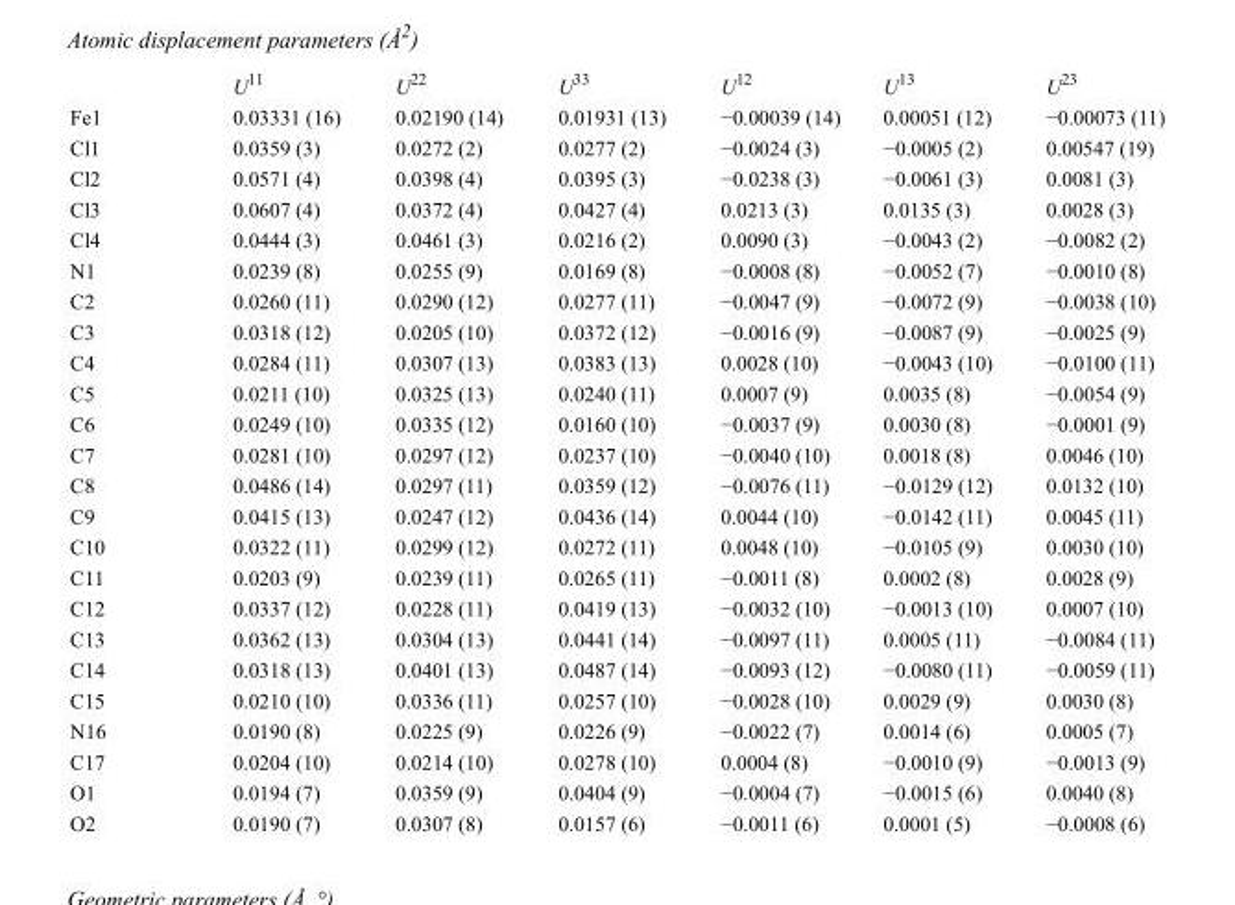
<table><thead><tr><td></td><td>U<sup>11</sup></td><td>U<sup>22</sup></td><td>U<sup>33</sup></td><td>U<sup>12</sup></td><td>U<sup>13</sup></td><td>U<sup>23</sup></td></tr></thead><tbody><tr><td>Fe1</td><td>0.03331 (16)</td><td>0.02190 (14)</td><td>0.01931 (13)</td><td>−0.00039 (14)</td><td>0.00051 (12)</td><td>−0.00073 (11)</td></tr><tr><td>Cl1</td><td>0.0359 (3)</td><td>0.0272 (2)</td><td>0.0277 (2)</td><td>−0.0024 (3)</td><td>−0.0005 (2)</td><td>0.00547 (19)</td></tr><tr><td>Cl2</td><td>0.0571 (4)</td><td>0.0398 (4)</td><td>0.0395 (3)</td><td>−0.0238 (3)</td><td>−0.0061 (3)</td><td>0.0081 (3)</td></tr><tr><td>Cl3</td><td>0.0607 (4)</td><td>0.0372 (4)</td><td>0.0427 (4)</td><td>0.0213 (3)</td><td>0.0135 (3)</td><td>0.0028 (3)</td></tr><tr><td>Cl4</td><td>0.0444 (3)</td><td>0.0461 (3)</td><td>0.0216 (2)</td><td>0.0090 (3)</td><td>−0.0043 (2)</td><td>−0.0082 (2)</td></tr><tr><td>N1</td><td>0.0239 (8)</td><td>0.0255 (9)</td><td>0.0169 (8)</td><td>−0.0008 (8)</td><td>−0.0052 (7)</td><td>−0.0010 (8)</td></tr><tr><td>C2</td><td>0.0260 (11)</td><td>0.0290 (12)</td><td>0.0277 (11)</td><td>−0.0047 (9)</td><td>−0.0072 (9)</td><td>−0.0038 (10)</td></tr><tr><td>C3</td><td>0.0318 (12)</td><td>0.0205 (10)</td><td>0.0372 (12)</td><td>−0.0016 (9)</td><td>−0.0087 (9)</td><td>−0.0025 (9)</td></tr><tr><td>C4</td><td>0.0284 (11)</td><td>0.0307 (13)</td><td>0.0383 (13)</td><td>0.0028 (10)</td><td>−0.0043 (10)</td><td>−0.0100 (11)</td></tr><tr><td>C5</td><td>0.0211 (10)</td><td>0.0325 (13)</td><td>0.0240 (11)</td><td>0.0007 (9)</td><td>0.0035 (8)</td><td>−0.0054 (9)</td></tr><tr><td>C6</td><td>0.0249 (10)</td><td>0.0335 (12)</td><td>0.0160 (10)</td><td>−0.0037 (9)</td><td>0.0030 (8)</td><td>−0.0001 (9)</td></tr><tr><td>C7</td><td>0.0281 (10)</td><td>0.0297 (12)</td><td>0.0237 (10)</td><td>−0.0040 (10)</td><td>0.0018 (8)</td><td>0.0046 (10)</td></tr><tr><td>C8</td><td>0.0486 (14)</td><td>0.0297 (11)</td><td>0.0359 (12)</td><td>−0.0076 (11)</td><td>−0.0129 (12)</td><td>0.0132 (10)</td></tr><tr><td>C9</td><td>0.0415 (13)</td><td>0.0247 (12)</td><td>0.0436 (14)</td><td>0.0044 (10)</td><td>−0.0142 (11)</td><td>0.0045 (11)</td></tr><tr><td>C10</td><td>0.0322 (11)</td><td>0.0299 (12)</td><td>0.0272 (11)</td><td>0.0048 (10)</td><td>−0.0105 (9)</td><td>0.0030 (10)</td></tr><tr><td>C11</td><td>0.0203 (9)</td><td>0.0239 (11)</td><td>0.0265 (11)</td><td>−0.0011 (8)</td><td>0.0002 (8)</td><td>0.0028 (9)</td></tr><tr><td>C12</td><td>0.0337 (12)</td><td>0.0228 (11)</td><td>0.0419 (13)</td><td>−0.0032 (10)</td><td>−0.0013 (10)</td><td>0.0007 (10)</td></tr><tr><td>C13</td><td>0.0362 (13)</td><td>0.0304 (13)</td><td>0.0441 (14)</td><td>−0.0097 (11)</td><td>0.0005 (11)</td><td>−0.0084 (11)</td></tr><tr><td>C14</td><td>0.0318 (13)</td><td>0.0401 (13)</td><td>0.0487 (14)</td><td>−0.0093 (12)</td><td>−0.0080 (11)</td><td>−0.0059 (11)</td></tr><tr><td>C15</td><td>0.0210 (10)</td><td>0.0336 (11)</td><td>0.0257 (10)</td><td>−0.0028 (10)</td><td>0.0029 (9)</td><td>0.0030 (8)</td></tr><tr><td>N16</td><td>0.0190 (8)</td><td>0.0225 (9)</td><td>0.0226 (9)</td><td>−0.0022 (7)</td><td>0.0014 (6)</td><td>0.0005 (7)</td></tr><tr><td>C17</td><td>0.0204 (10)</td><td>0.0214 (10)</td><td>0.0278 (10)</td><td>0.0004 (8)</td><td>−0.0010 (9)</td><td>−0.0013 (9)</td></tr><tr><td>O1</td><td>0.0194 (7)</td><td>0.0359 (9)</td><td>0.0404 (9)</td><td>−0.0004 (7)</td><td>−0.0015 (6)</td><td>0.0040 (8)</td></tr><tr><td>O2</td><td>0.0190 (7)</td><td>0.0307 (8)</td><td>0.0157 (6)</td><td>−0.0011 (6)</td><td>0.0001 (5)</td><td>−0.0008 (6)</td></tr></tbody></table>